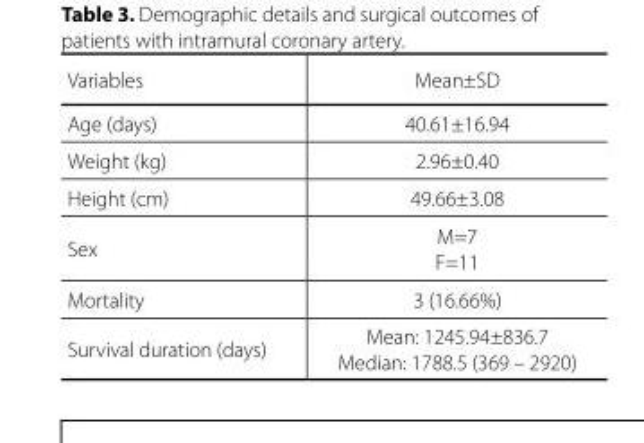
<table><thead><tr><td>Variables</td><td>Mean±SD</td></tr></thead><tbody><tr><td>Age (days)</td><td>40.61±16.94</td></tr><tr><td>Weight (kg)</td><td>2.96±0.40</td></tr><tr><td>Height (cm)</td><td>49.66±3.08</td></tr><tr><td>Sex</td><td>M=7 F=11</td></tr><tr><td>Mortality</td><td>3 (16.66%)</td></tr><tr><td rowspan="2">Survival duration (days)</td><td>Mean: 1245.94±836.7</td></tr><tr><td>Median: 1788.5 (369 – 2920)</td></tr></tbody></table>